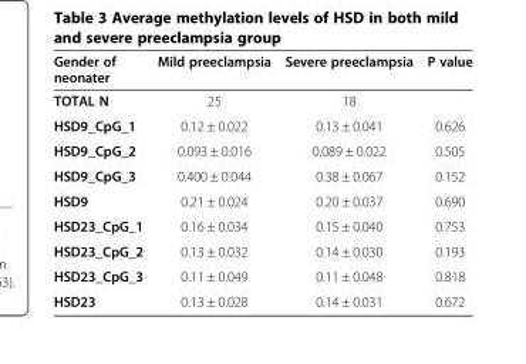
<table><thead><tr><td>Gender of neonater</td><td>Mild preeclampsia</td><td>Severe preeclampsia</td><td>P value</td></tr></thead><tbody><tr><td>TOTAL N</td><td>25</td><td>18</td><td></td></tr><tr><td>HSD9_CpG_1</td><td>0.12 ± 0.022</td><td>0.13 ± 0.041</td><td>0.626</td></tr><tr><td>HSD9_CpG_2</td><td>0.093 ± 0.016</td><td>0.089 ± 0.022</td><td>0.505</td></tr><tr><td>HSD9_CpG_3</td><td>0.400 ± 0.044</td><td>0.38 ± 0.067</td><td>0.152</td></tr><tr><td>HSD9</td><td>0.21 ± 0.024</td><td>0.20 ± 0.037</td><td>0.690</td></tr><tr><td>HSD23_CpG_1</td><td>0.16 ± 0.034</td><td>0.15 ± 0.040</td><td>0.753</td></tr><tr><td>HSD23_CpG_2</td><td>0.13 ± 0.032</td><td>0.14 ± 0.030</td><td>0.193</td></tr><tr><td>HSD23_CpG_3</td><td>0.11 ± 0.049</td><td>0.11 ± 0.048</td><td>0.818</td></tr><tr><td>HSD23</td><td>0.13 ± 0.028</td><td>0.14 ± 0.031</td><td>0.672</td></tr></tbody></table>